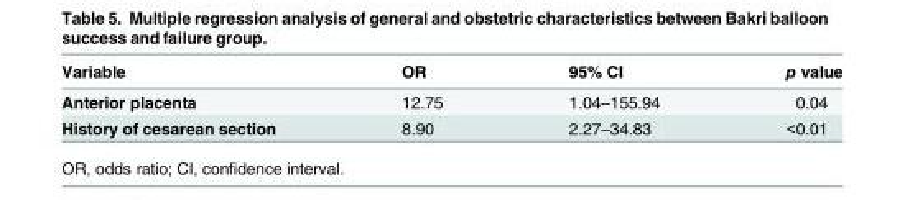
<table><thead><tr><td>Variable</td><td>OR</td><td>95% CI</td><td>p value</td></tr></thead><tbody><tr><td>Anterior placenta</td><td>12.75</td><td>1.04–155.94</td><td>0.04</td></tr><tr><td>History of cesarean section</td><td>8.90</td><td>2.27–34.83</td><td>&lt;0.01</td></tr></tbody></table>